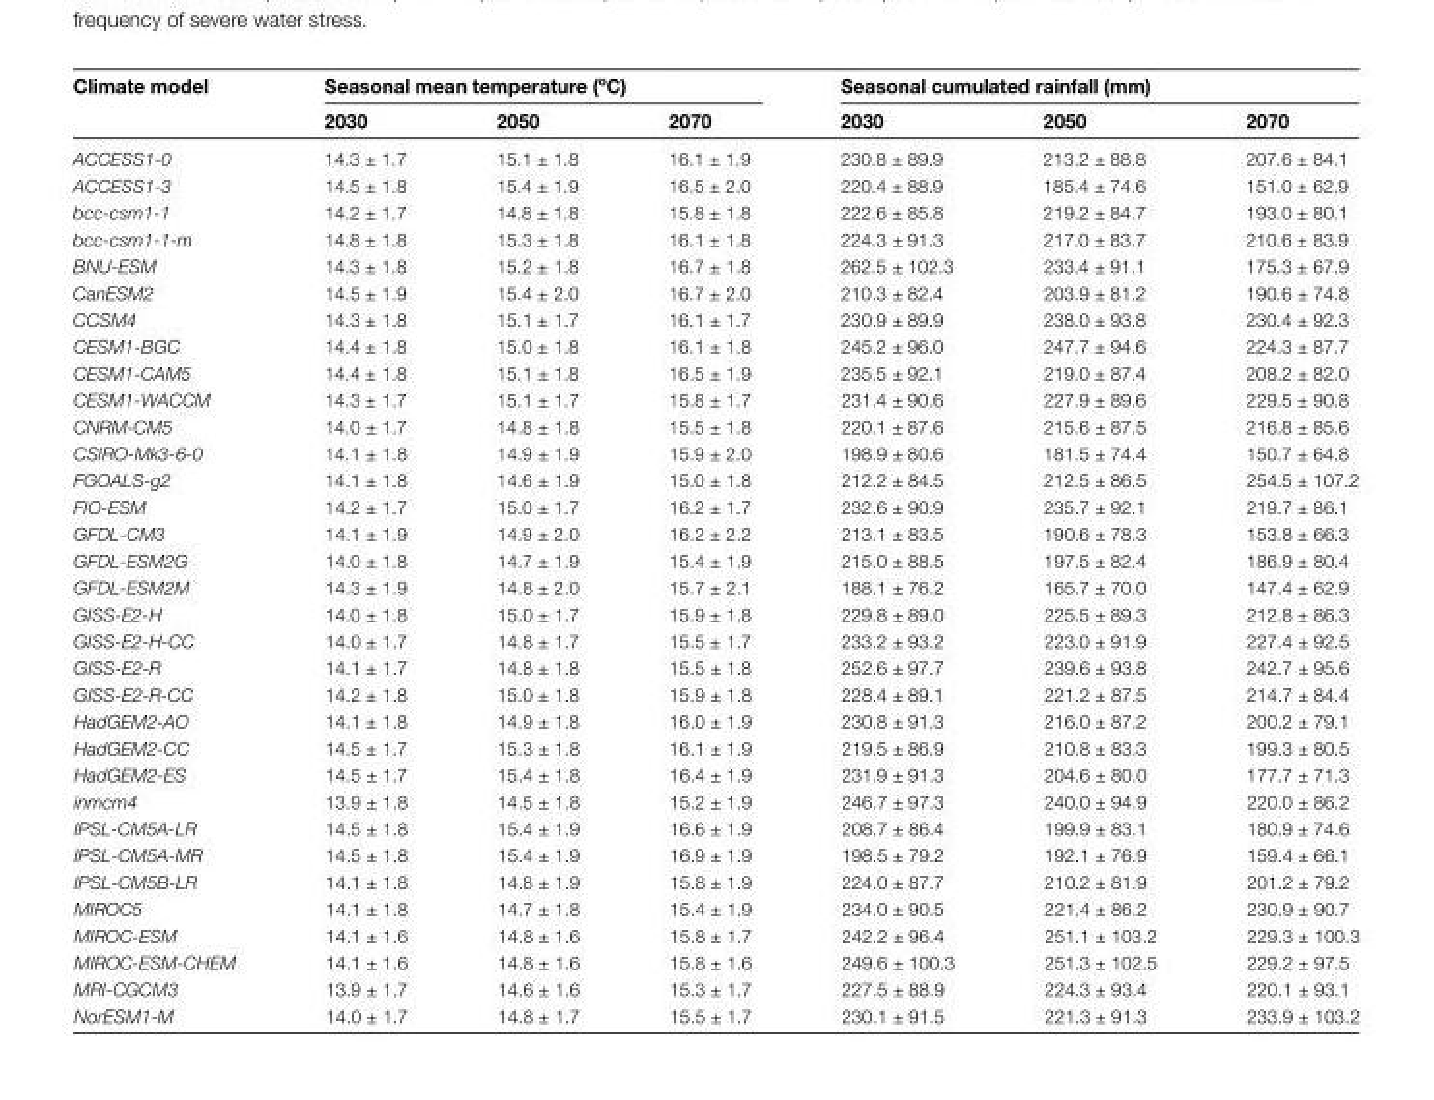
<table><thead><tr><td rowspan="2">Climate model</td><td colspan="3">Seasonal mean temperature (<sup>o</sup>C)</td><td colspan="3">Seasonal cumulated rainfall (mm)</td></tr><tr><td>2030</td><td>2050</td><td>2070</td><td>2030</td><td>2050</td><td>2070</td></tr></thead><tbody><tr><td>ACCESS1-0</td><td>14.3 ± 1.7</td><td>15.1 ± 1.8</td><td>16.1 ± 1.9</td><td>230.8 ± 89.9</td><td>213.2 ± 88.8</td><td>207.6 ± 84.1</td></tr><tr><td>ACCESS1-3</td><td>14.5 ± 1.8</td><td>15.4 ± 1.9</td><td>16.5 ± 2.0</td><td>220.4 ± 88.9</td><td>185.4 ± 74.6</td><td>151.0 ± 62.9</td></tr><tr><td>bcc-csm1-1</td><td>14.2 ± 1.7</td><td>14.8 ± 1.8</td><td>15.8 ± 1.8</td><td>222.6 ± 85.8</td><td>219.2 ± 84.7</td><td>193.0 ± 80.1</td></tr><tr><td>bcc-csm1-1-m</td><td>14.8 ± 1.8</td><td>15.3 ± 1.8</td><td>16.1 ± 1.8</td><td>224.3 ± 91.3</td><td>217.0 ± 83.7</td><td>210.6 ± 83.9</td></tr><tr><td>BNU-ESM</td><td>14.3 ± 1.8</td><td>15.2 ± 1.8</td><td>16.7 ± 1.8</td><td>262.5 ± 102.3</td><td>233.4 ± 91.1</td><td>175.3 ± 67.9</td></tr><tr><td>CanESM2</td><td>14.5 ± 1.9</td><td>15.4 ± 2.0</td><td>16.7 ± 2.0</td><td>210.3 ± 82.4</td><td>203.9 ± 81.2</td><td>190.6 ± 74.8</td></tr><tr><td>CCSM4</td><td>14.3 ± 1.8</td><td>15.1 ± 1.7</td><td>16.1 ± 1.7</td><td>230.9 ± 89.9</td><td>238.0 ± 93.8</td><td>230.4 ± 92.3</td></tr><tr><td>CESM1-BGC</td><td>14.4 ± 1.8</td><td>15.0 ± 1.8</td><td>16.1 ± 1.8</td><td>245.2 ± 96.0</td><td>247.7 ± 94.6</td><td>224.3 ± 87.7</td></tr><tr><td>CESM1-CAM5</td><td>14.4 ± 1.8</td><td>15.1 ± 1.8</td><td>16.5 ± 1.9</td><td>235.5 ± 92.1</td><td>219.0 ± 87.4</td><td>208.2 ± 82.0</td></tr><tr><td>CESM1-WACCM</td><td>14.3 ± 1.7</td><td>15.1 ± 1.7</td><td>15.8 ± 1.7</td><td>231.4 ± 90.6</td><td>227.9 ± 89.6</td><td>229.5 ± 90.8</td></tr><tr><td>CNRM-CM5</td><td>14.0 ± 1.7</td><td>14.8 ± 1.8</td><td>15.5 ± 1.8</td><td>220.1 ± 87.6</td><td>215.6 ± 87.5</td><td>216.8 ± 85.6</td></tr><tr><td>CSIRO-Mk3-6-0</td><td>14.1 ± 1.8</td><td>14.9 ± 1.9</td><td>15.9 ± 2.0</td><td>198.9 ± 80.6</td><td>181.5 ± 74.4</td><td>150.7 ± 64.8</td></tr><tr><td>FGOALS-g2</td><td>14.1 ± 1.8</td><td>14.6 ± 1.9</td><td>15.0 ± 1.8</td><td>212.2 ± 84.5</td><td>212.5 ± 86.5</td><td>254.5 ± 107.2</td></tr><tr><td>FIO-ESM</td><td>14.2 ± 1.7</td><td>15.0 ± 1.7</td><td>16.2 ± 1.7</td><td>232.6 ± 90.9</td><td>235.7 ± 92.1</td><td>219.7 ± 86.1</td></tr><tr><td>GFDL-CM3</td><td>14.1 ± 1.9</td><td>14.9 ± 2.0</td><td>16.2 ± 2.2</td><td>213.1 ± 83.5</td><td>190.6 ± 78.3</td><td>153.8 ± 66.3</td></tr><tr><td>GFDL-ESM2G</td><td>14.0 ± 1.8</td><td>14.7 ± 1.9</td><td>15.4 ± 1.9</td><td>215.0 ± 88.5</td><td>197.5 ± 82.4</td><td>186.9 ± 80.4</td></tr><tr><td>GFDL-ESM2M</td><td>14.3 ± 1.9</td><td>14.8 ± 2.0</td><td>15.7 ± 2.1</td><td>188.1 ± 76.2</td><td>165.7 ± 70.0</td><td>147.4 ± 62.9</td></tr><tr><td>GISS-E2-H</td><td>14.0 ± 1.8</td><td>15.0 ± 1.7</td><td>15.9 ± 1.8</td><td>229.8 ± 89.0</td><td>225.5 ± 89.3</td><td>212.8 ± 86.3</td></tr><tr><td>GISS-E2-H-CC</td><td>14.0 ± 1.7</td><td>14.8 ± 1.7</td><td>15.5 ± 1.7</td><td>233.2 ± 93.2</td><td>223.0 ± 91.9</td><td>227.4 ± 92.5</td></tr><tr><td>GISS-E2-R</td><td>14.1 ± 1.7</td><td>14.8 ± 1.8</td><td>15.5 ± 1.8</td><td>252.6 ± 97.7</td><td>239.6 ± 93.8</td><td>242.7 ± 95.6</td></tr><tr><td>GISS-E2-R-CC</td><td>14.2 ± 1.8</td><td>15.0 ± 1.8</td><td>15.9 ± 1.8</td><td>228.4 ± 89.1</td><td>221.2 ± 87.5</td><td>214.7 ± 84.4</td></tr><tr><td>HadGEM2-AO</td><td>14.1 ± 1.8</td><td>14.9 ± 1.8</td><td>16.0 ± 1.9</td><td>230.8 ± 91.3</td><td>216.0 ± 87.2</td><td>200.2 ± 79.1</td></tr><tr><td>HadGEM2-CC</td><td>14.5 ± 1.7</td><td>15.3 ± 1.8</td><td>16.1 ± 1.9</td><td>219.5 ± 86.9</td><td>210.8 ± 83.3</td><td>199.3 ± 80.5</td></tr><tr><td>HadGEM2-ES</td><td>14.5 ± 1.7</td><td>15.4 ± 1.8</td><td>16.4 ± 1.9</td><td>231.9 ± 91.3</td><td>204.6 ± 80.0</td><td>177.7 ± 71.3</td></tr><tr><td>inmcm4</td><td>13.9 ± 1.8</td><td>14.5 ± 1.8</td><td>15.2 ± 1.9</td><td>246.7 ± 97.3</td><td>240.0 ± 94.9</td><td>220.0 ± 86.2</td></tr><tr><td>IPSL-CM5A-LR</td><td>14.5 ± 1.8</td><td>15.4 ± 1.9</td><td>16.6 ± 1.9</td><td>208.7 ± 86.4</td><td>199.9 ± 83.1</td><td>180.9 ± 74.6</td></tr><tr><td>IPSL-CM5A-MR</td><td>14.5 ± 1.8</td><td>15.4 ± 1.9</td><td>16.9 ± 1.9</td><td>198.5 ± 79.2</td><td>192.1 ± 76.9</td><td>159.4 ± 66.1</td></tr><tr><td>IPSL-CM5B-LR</td><td>14.1 ± 1.8</td><td>14.8 ± 1.9</td><td>15.8 ± 1.9</td><td>224.0 ± 87.7</td><td>210.2 ± 81.9</td><td>201.2 ± 79.2</td></tr><tr><td>MIROC5</td><td>14.1 ± 1.8</td><td>14.7 ± 1.8</td><td>15.4 ± 1.9</td><td>234.0 ± 90.5</td><td>221.4 ± 86.2</td><td>230.9 ± 90.7</td></tr><tr><td>MIROC-ESM</td><td>14.1 ± 1.6</td><td>14.8 ± 1.6</td><td>15.8 ± 1.7</td><td>242.2 ± 96.4</td><td>251.1 ± 103.2</td><td>229.3 ± 100.3</td></tr><tr><td>MIROC-ESM-CHEM</td><td>14.1 ± 1.6</td><td>14.8 ± 1.6</td><td>15.8 ± 1.6</td><td>249.6 ± 100.3</td><td>251.3 ± 102.5</td><td>229.2 ± 97.5</td></tr><tr><td>MRI-CGCM3</td><td>13.9 ± 1.7</td><td>14.6 ± 1.6</td><td>15.3 ± 1.7</td><td>227.5 ± 88.9</td><td>224.3 ± 93.4</td><td>220.1 ± 93.1</td></tr><tr><td>NorESM1-M</td><td>14.0 ± 1.7</td><td>14.8 ± 1.7</td><td>15.5 ± 1.7</td><td>230.1 ± 91.5</td><td>221.3 ± 91.3</td><td>233.9 ± 103.2</td></tr></tbody></table>